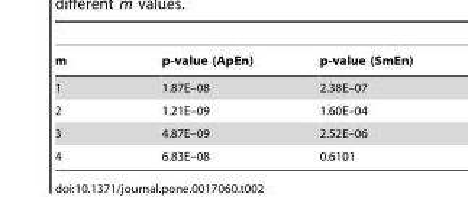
<table><thead><tr><td>m</td><td>p-value (ApEn)</td><td>p-value (SmEn)</td></tr></thead><tbody><tr><td>1</td><td>1.87E–08</td><td>2.38E–07</td></tr><tr><td>2</td><td>1.21E–09</td><td>1.60E–04</td></tr><tr><td>3</td><td>4.87E–09</td><td>2.52E–06</td></tr><tr><td>4</td><td>6.83E–08</td><td>0.6101</td></tr></tbody></table>